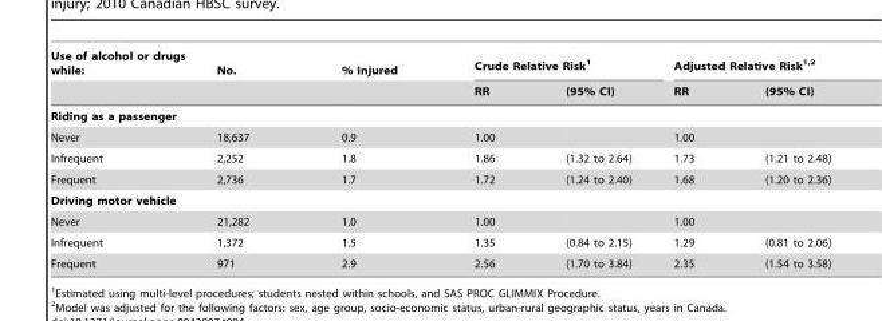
<table><thead><tr><td rowspan="2">Use of alcohol or drugs while:</td><td rowspan="2">No.</td><td rowspan="2">% Injured</td><td colspan="2">Crude Relative Risk<sup>1</sup></td><td colspan="2">Adjusted Relative Risk<sup>1,</sup>2</td></tr><tr><td>RR</td><td>(95% CI)</td><td>RR</td><td>(95% CI)</td></tr></thead><tbody><tr><td colspan="7">Riding as a passenger</td></tr><tr><td>Never</td><td>18,637</td><td>0.9</td><td>1.00</td><td></td><td>1.00</td><td></td></tr><tr><td>Infrequent</td><td>2,252</td><td>1.8</td><td>1.86</td><td>(1.32 to 2.64)</td><td>1.73</td><td>(1.21 to 2.48)</td></tr><tr><td>Frequent</td><td>2,736</td><td>1.7</td><td>1.72</td><td>(1.24 to 2.40)</td><td>1.68</td><td>(1.20 to 2.36)</td></tr><tr><td colspan="7">Driving motor vehicle</td></tr><tr><td>Never</td><td>21,282</td><td>1.0</td><td>1.00</td><td></td><td>1.00</td><td></td></tr><tr><td>Infrequent</td><td>1,372</td><td>1.5</td><td>1.35</td><td>(0.84 to 2.15)</td><td>1.29</td><td>(0.81 to 2.06)</td></tr><tr><td>Frequent</td><td>971</td><td>2.9</td><td>2.56</td><td>(1.70 to 3.84)</td><td>2.35</td><td>(1.54 to 3.58)</td></tr></tbody></table>